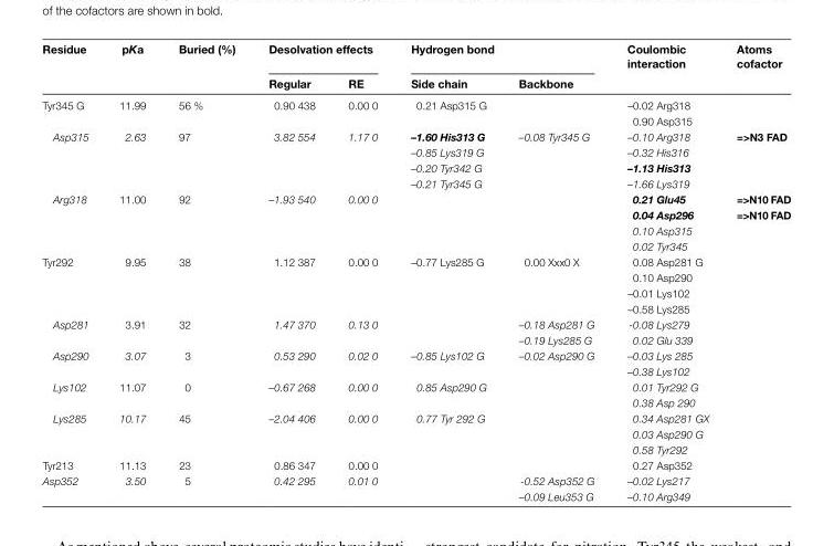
<table><thead><tr><td rowspan="2">Residue</td><td rowspan="2">pKa</td><td rowspan="2">Buried (%)</td><td colspan="2">Desolvation effects</td><td colspan="2">Hydrogen bond</td><td rowspan="2">Coulombic interaction</td><td rowspan="2">Atoms cofactor</td></tr><tr><td>Regular</td><td>RE</td><td>Side chain</td><td>Backbone</td></tr></thead><tbody><tr><td>Tyr345 G</td><td>11.99</td><td>56 %</td><td>0.90 438</td><td>0.00 0</td><td>0.21 Asp315 G</td><td></td><td>–0.02 Arg318 0.90 Asp315</td><td></td></tr><tr><td>Asp315</td><td>2.63</td><td>97</td><td>3.82 554</td><td>1.17 0</td><td>–1.60 His313 G –0.85 Lys319 G –0.20 Tyr342 G –0.21 Tyr345 G</td><td>–0.08 Tyr345 G</td><td>–0.10 Arg318 –0.32 His316 –1.13 His313 –1.66 Lys319</td><td>=&gt;N3 FAD</td></tr><tr><td>Arg318</td><td>11.00</td><td>92</td><td>–1.93 540</td><td>0.00 0</td><td></td><td></td><td>0.21 Glu45 0.04 Asp296 0.10 Asp315 0.02 Tyr345</td><td>=&gt;N10 FAD =&gt;N10 FAD</td></tr><tr><td>Tyr292</td><td>9.95</td><td>38</td><td>1.12 387</td><td>0.00 0</td><td>–0.77 Lys285 G</td><td>0.00 Xxx0 X</td><td>0.08 Asp281 G 0.10 Asp290 –0.01 Lys102 –0.58 Lys285</td><td></td></tr><tr><td>Asp281</td><td>3.91</td><td>32</td><td>1.47 370</td><td>0.13 0</td><td></td><td>–0.18 Asp281 G –0.19 Lys285 G</td><td>-0.08 Lys279 0.02 Glu 339</td><td></td></tr><tr><td>Asp290</td><td>3.07</td><td>3</td><td>0.53 290</td><td>0.02 0</td><td>–0.85 Lys102 G</td><td>–0.02 Asp290 G</td><td>–0.03 Lys 285 –0.38 Lys102</td><td></td></tr><tr><td>Lys102</td><td>11.07</td><td>0</td><td>–0.67 268</td><td>0.00 0</td><td>0.85 Asp290 G</td><td></td><td>0.01 Tyr292 G 0.38 Asp 290</td><td></td></tr><tr><td>Lys285</td><td>10.17</td><td>45</td><td>–2.04 406</td><td>0.00 0</td><td>0.77 Tyr 292 G</td><td></td><td>0.34 Asp281 GX 0.03 Asp290 G 0.58 Tyr292</td><td></td></tr><tr><td>Tyr213</td><td>11.13</td><td>23</td><td>0.86 347</td><td>0.00 0</td><td></td><td></td><td>0.27 Asp352</td><td></td></tr><tr><td>Asp352</td><td>3.50</td><td>5</td><td>0.42 295</td><td>0.01 0</td><td></td><td>-0.52 Asp352 G –0.09 Leu353 G</td><td>–0.02 Lys217 –0.10 Arg349</td><td></td></tr></tbody></table>